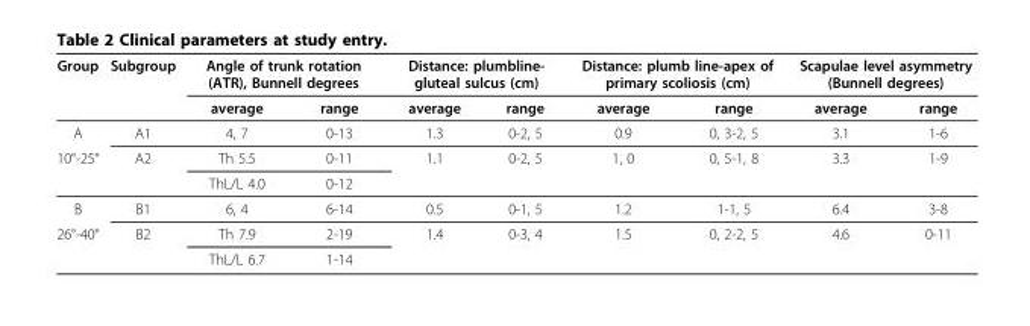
<table><thead><tr><td rowspan="2">Group</td><td rowspan="2">Subgroup</td><td colspan="2">Angle of trunk rotation (ATR), Bunnell degrees</td><td colspan="2">Distance: plumbline- gluteal sulcus (cm)</td><td colspan="2">Distance: plumb line-apex of primary scoliosis (cm)</td><td colspan="2">Scapulae level asymmetry (Bunnell degrees)</td></tr><tr><td>average</td><td>range</td><td>average</td><td>range</td><td>average</td><td>range</td><td>average</td><td>range</td></tr></thead><tbody><tr><td>A</td><td>A1</td><td>4, 7</td><td>0-13</td><td>1.3</td><td>0-2, 5</td><td>0.9</td><td>0, 3-2, 5</td><td>3.1</td><td>1-6</td></tr><tr><td rowspan="2">10°-25°</td><td>A2</td><td>Th 5.5</td><td>0-11</td><td>1.1</td><td>0-2, 5</td><td>1, 0</td><td>0, 5-1, 8</td><td>3.3</td><td>1-9</td></tr><tr><td></td><td>ThL/L 4.0</td><td>0-12</td><td></td><td></td><td></td><td></td><td></td><td></td></tr><tr><td>B</td><td>B1</td><td>6, 4</td><td>6-14</td><td>0.5</td><td>0-1, 5</td><td>1.2</td><td>1-1, 5</td><td>6.4</td><td>3-8</td></tr><tr><td rowspan="2">26°-40°</td><td>B2</td><td>Th 7.9</td><td>2-19</td><td>1.4</td><td>0-3, 4</td><td>1.5</td><td>0, 2-2, 5</td><td>4.6</td><td>0-11</td></tr><tr><td></td><td>ThL/L 6.7</td><td>1-14</td><td></td><td></td><td></td><td></td><td></td><td></td></tr></tbody></table>